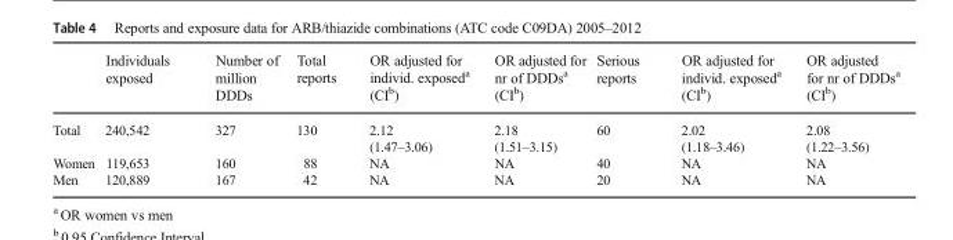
<table><thead><tr><td></td><td>Individuals exposed</td><td>Number of million DDDs</td><td>Total reports</td><td>OR adjusted for individ. exposed<sup>a</sup> (CI<sup>b</sup>)</td><td>OR adjusted for nr of DDDs<sup>a</sup> (CI<sup>b</sup>)</td><td>Serious reports</td><td>OR adjusted for individ. exposed<sup>a</sup> (CI<sup>b</sup>)</td><td>OR adjusted for nr of DDDs<sup>a</sup> (CI<sup>b</sup>)</td></tr></thead><tbody><tr><td>Total</td><td>240,542</td><td>327</td><td>130</td><td>2.12 (1.47–3.06)</td><td>2.18 (1.51–3.15)</td><td>60</td><td>2.02 (1.18–3.46)</td><td>2.08 (1.22–3.56)</td></tr><tr><td>Women</td><td>119,653</td><td>160</td><td>88</td><td>NA</td><td>NA</td><td>40</td><td>NA</td><td>NA</td></tr><tr><td>Men</td><td>120,889</td><td>167</td><td>42</td><td>NA</td><td>NA</td><td>20</td><td>NA</td><td>NA</td></tr></tbody></table>